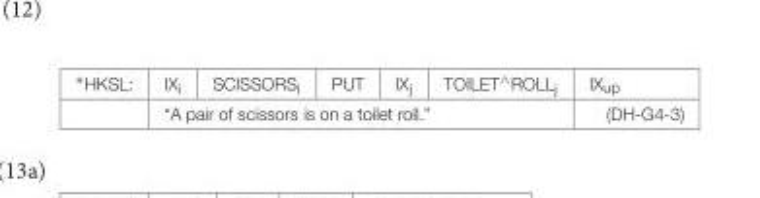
<table><tbody><tr><td rowspan="2">∗HKSL:</td><td>IX<sub>i</sub></td><td>SCISSORS<sub>i</sub></td><td>PUT</td><td>IX<sub>j</sub></td><td>TOILET<sup>∧</sup>ROLL<sub>j</sub></td><td>IX<sub>up</sub></td></tr><tr><td colspan="5">“A pair of scissors is on a toilet roll.”</td><td>(DH-G4-3)</td></tr></tbody></table>